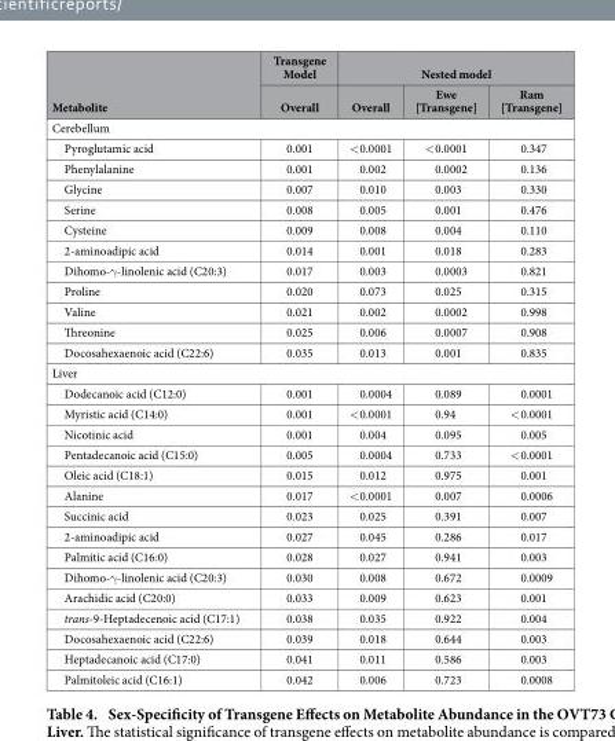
<table><thead><tr><td rowspan="2">Metabolite</td><td rowspan="2">Transgene Model Overall</td><td colspan="3">Nested model</td></tr><tr><td>Overall</td><td>Ewe [Transgene]</td><td>Ram [Transgene]</td></tr></thead><tbody><tr><td colspan="5">Cerebellum</td></tr><tr><td>Pyroglutamic acid</td><td>0.001</td><td>&lt; 0.0001</td><td>&lt; 0.0001</td><td>0.347</td></tr><tr><td>Phenylalanine</td><td>0.001</td><td>0.002</td><td>0.0002</td><td>0.136</td></tr><tr><td>Glycine</td><td>0.007</td><td>0.010</td><td>0.003</td><td>0.330</td></tr><tr><td>Serine</td><td>0.008</td><td>0.005</td><td>0.001</td><td>0.476</td></tr><tr><td>Cysteine</td><td>0.009</td><td>0.008</td><td>0.004</td><td>0.110</td></tr><tr><td>2-aminoadipic acid</td><td>0.014</td><td>0.001</td><td>0.018</td><td>0.283</td></tr><tr><td>Dihomo-γ -linolenic acid (C20:3)</td><td>0.017</td><td>0.003</td><td>0.0003</td><td>0.821</td></tr><tr><td>Proline</td><td>0.020</td><td>0.073</td><td>0.025</td><td>0.315</td></tr><tr><td>Valine</td><td>0.021</td><td>0.002</td><td>0.0002</td><td>0.998</td></tr><tr><td>Threonine</td><td>0.025</td><td>0.006</td><td>0.0007</td><td>0.908</td></tr><tr><td>Docosahexaenoic acid (C22:6)</td><td>0.035</td><td>0.013</td><td>0.001</td><td>0.835</td></tr><tr><td colspan="5">Liver</td></tr><tr><td>Dodecanoic acid (C12:0)</td><td>0.001</td><td>0.0004</td><td>0.089</td><td>0.0001</td></tr><tr><td>Myristic acid (C14:0)</td><td>0.001</td><td>&lt; 0.0001</td><td>0.94</td><td>&lt; 0.0001</td></tr><tr><td>Nicotinic acid</td><td>0.001</td><td>0.004</td><td>0.095</td><td>0.005</td></tr><tr><td>Pentadecanoic acid (C15:0)</td><td>0.005</td><td>0.0004</td><td>0.733</td><td>&lt; 0.0001</td></tr><tr><td>Oleic acid (C18:1)</td><td>0.015</td><td>0.012</td><td>0.975</td><td>0.001</td></tr><tr><td>Alanine</td><td>0.017</td><td>&lt; 0.0001</td><td>0.007</td><td>0.0006</td></tr><tr><td>Succinic acid</td><td>0.023</td><td>0.025</td><td>0.391</td><td>0.007</td></tr><tr><td>2-aminoadipic acid</td><td>0.027</td><td>0.045</td><td>0.286</td><td>0.017</td></tr><tr><td>Palmitic acid (C16:0)</td><td>0.028</td><td>0.027</td><td>0.941</td><td>0.003</td></tr><tr><td>Dihomo-γ -linolenic acid (C20:3)</td><td>0.030</td><td>0.008</td><td>0.672</td><td>0.0009</td></tr><tr><td>Arachidic acid (C20:0)</td><td>0.033</td><td>0.009</td><td>0.623</td><td>0.001</td></tr><tr><td>trans-9-Heptadecenoic acid (C17:1)</td><td>0.038</td><td>0.035</td><td>0.922</td><td>0.004</td></tr><tr><td>Docosahexaenoic acid (C22:6)</td><td>0.039</td><td>0.018</td><td>0.644</td><td>0.003</td></tr><tr><td>Heptadecanoic acid (C17:0)</td><td>0.041</td><td>0.011</td><td>0.586</td><td>0.003</td></tr><tr><td>Palmitoleic acid (C16:1)</td><td>0.042</td><td>0.006</td><td>0.723</td><td>0.0008</td></tr></tbody></table>